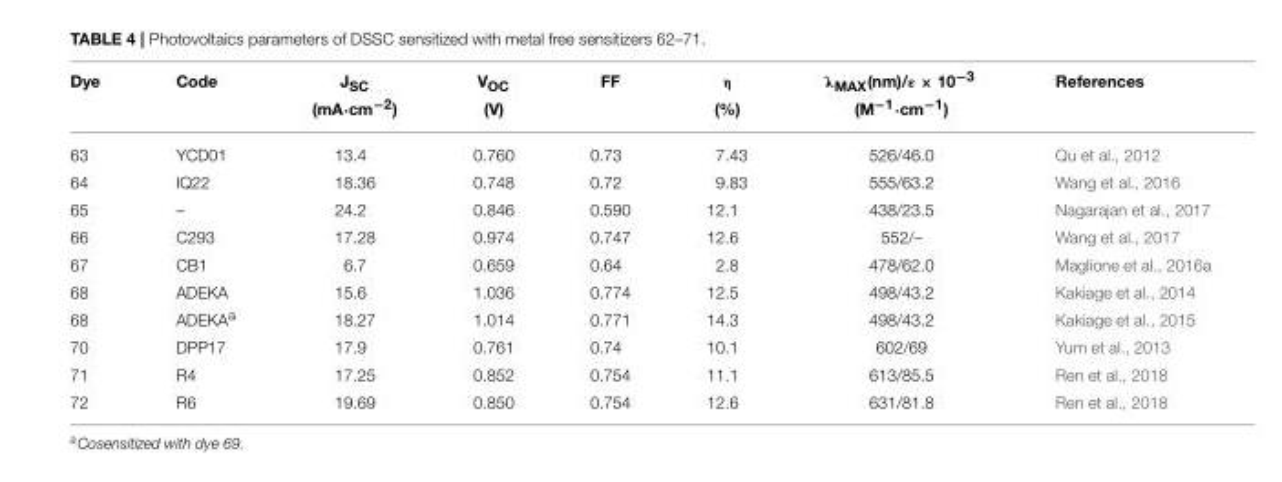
<table><thead><tr><td rowspan="2">Dye</td><td rowspan="2">Code</td><td rowspan="2">J<sub>SC</sub> (mA·cm<sup>−2</sup>)</td><td rowspan="2">V<sub>OC</sub> (V)</td><td rowspan="2">FF</td><td rowspan="2">η (%)</td><td rowspan="2">λ<sub>MAX</sub>(nm)/ε × 10<sup>−3</sup> (M<sup>−1</sup>·cm<sup>−1</sup>)</td><td rowspan="2">References</td></tr><tr></tr></thead><tbody><tr><td>63</td><td>YCD01</td><td>13.4</td><td>0.760</td><td>0.73</td><td>7.43</td><td>526/46.0</td><td>Qu et al., 2012</td></tr><tr><td>64</td><td>IQ22</td><td>18.36</td><td>0.748</td><td>0.72</td><td>9.83</td><td>555/63.2</td><td>Wang et al., 2016</td></tr><tr><td>65</td><td>–</td><td>24.2</td><td>0.846</td><td>0.590</td><td>12.1</td><td>438/23.5</td><td>Nagarajan et al., 2017</td></tr><tr><td>66</td><td>C293</td><td>17.28</td><td>0.974</td><td>0.747</td><td>12.6</td><td>552/–</td><td>Wang et al., 2017</td></tr><tr><td>67</td><td>CB1</td><td>6.7</td><td>0.659</td><td>0.64</td><td>2.8</td><td>478/62.0</td><td>Maglione et al., 2016a</td></tr><tr><td>68</td><td>ADEKA</td><td>15.6</td><td>1.036</td><td>0.774</td><td>12.5</td><td>498/43.2</td><td>Kakiage et al., 2014</td></tr><tr><td>68</td><td>ADEKAa</td><td>18.27</td><td>1.014</td><td>0.771</td><td>14.3</td><td>498/43.2</td><td>Kakiage et al., 2015</td></tr><tr><td>70</td><td>DPP17</td><td>17.9</td><td>0.761</td><td>0.74</td><td>10.1</td><td>602/69</td><td>Yum et al., 2013</td></tr><tr><td>71</td><td>R4</td><td>17.25</td><td>0.852</td><td>0.754</td><td>11.1</td><td>613/85.5</td><td>Ren et al., 2018</td></tr><tr><td>72</td><td>R6</td><td>19.69</td><td>0.850</td><td>0.754</td><td>12.6</td><td>631/81.8</td><td>Ren et al., 2018</td></tr></tbody></table>